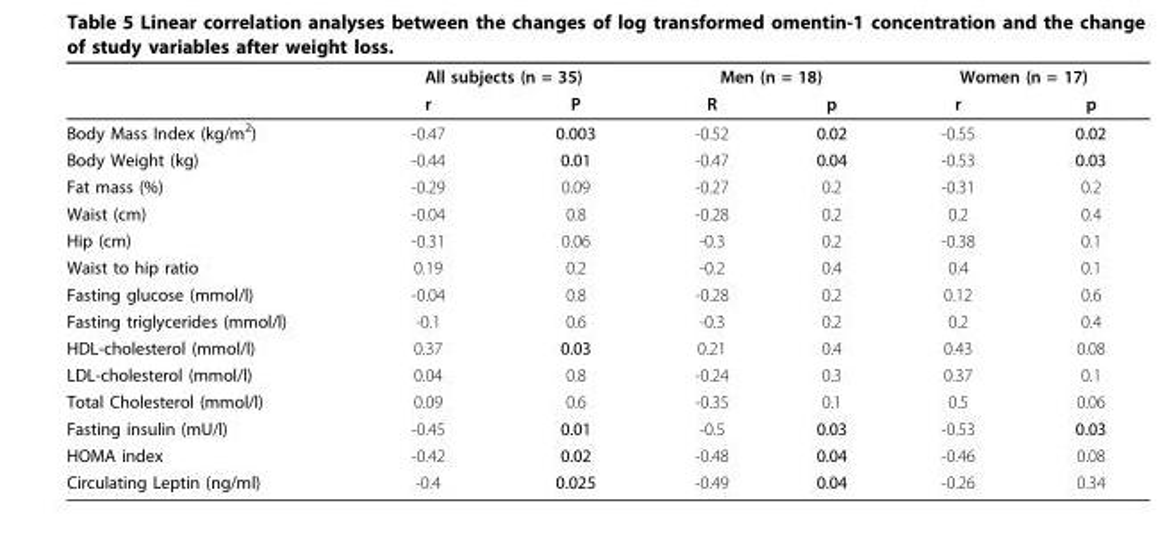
<table><thead><tr><td rowspan="2"></td><td colspan="2">All subjects (n = 35)</td><td colspan="2">Men (n = 18)</td><td colspan="2">Women (n = 17)</td></tr><tr><td>r</td><td>P</td><td>R</td><td>p</td><td>r</td><td>p</td></tr></thead><tbody><tr><td>Body Mass Index (kg/m<sup>2</sup>)</td><td>-0.47</td><td>0.003</td><td>-0.52</td><td>0.02</td><td>-0.55</td><td>0.02</td></tr><tr><td>Body Weight (kg)</td><td>-0.44</td><td>0.01</td><td>-0.47</td><td>0.04</td><td>-0.53</td><td>0.03</td></tr><tr><td>Fat mass (%)</td><td>-0.29</td><td>0.09</td><td>-0.27</td><td>0.2</td><td>-0.31</td><td>0.2</td></tr><tr><td>Waist (cm)</td><td>-0.04</td><td>0.8</td><td>-0.28</td><td>0.2</td><td>0.2</td><td>0.4</td></tr><tr><td>Hip (cm)</td><td>-0.31</td><td>0.06</td><td>-0.3</td><td>0.2</td><td>-0.38</td><td>0.1</td></tr><tr><td>Waist to hip ratio</td><td>0.19</td><td>0.2</td><td>-0.2</td><td>0.4</td><td>0.4</td><td>0.1</td></tr><tr><td>Fasting glucose (mmol/l)</td><td>-0.04</td><td>0.8</td><td>-0.28</td><td>0.2</td><td>0.12</td><td>0.6</td></tr><tr><td>Fasting triglycerides (mmol/l)</td><td>-0.1</td><td>0.6</td><td>-0.3</td><td>0.2</td><td>0.2</td><td>0.4</td></tr><tr><td>HDL-cholesterol (mmol/l)</td><td>0.37</td><td>0.03</td><td>0.21</td><td>0.4</td><td>0.43</td><td>0.08</td></tr><tr><td>LDL-cholesterol (mmol/l)</td><td>0.04</td><td>0.8</td><td>-0.24</td><td>0.3</td><td>0.37</td><td>0.1</td></tr><tr><td>Total Cholesterol (mmol/l)</td><td>0.09</td><td>0.6</td><td>-0.35</td><td>0.1</td><td>0.5</td><td>0.06</td></tr><tr><td>Fasting insulin (mU/l)</td><td>-0.45</td><td>0.01</td><td>-0.5</td><td>0.03</td><td>-0.53</td><td>0.03</td></tr><tr><td>HOMA index</td><td>-0.42</td><td>0.02</td><td>-0.48</td><td>0.04</td><td>-0.46</td><td>0.08</td></tr><tr><td>Circulating Leptin (ng/ml)</td><td>-0.4</td><td>0.025</td><td>-0.49</td><td>0.04</td><td>-0.26</td><td>0.34</td></tr></tbody></table>